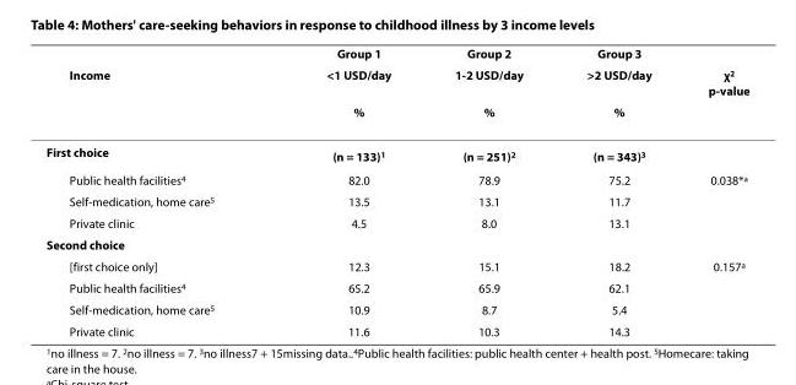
<table><thead><tr><td rowspan="3">Income</td><td rowspan="3">Group 1 &lt;1 USD/day %</td><td rowspan="3">Group 2 1-2 USD/day %</td><td rowspan="3">Group 3 &gt;2 USD/day %</td><td rowspan="3">χ<sup>2</sup> p-value</td></tr><tr></tr><tr></tr></thead><tbody><tr><td>First choice</td><td>(n = 133)<sup>1</sup></td><td>(n = 251)<sup>2</sup></td><td>(n = 343)<sup>3</sup></td><td></td></tr><tr><td>Public health facilities<sup>4</sup></td><td>82.0</td><td>78.9</td><td>75.2</td><td>0.038*<sup>a</sup></td></tr><tr><td>Self-medication, home care<sup>5</sup></td><td>13.5</td><td>13.1</td><td>11.7</td><td></td></tr><tr><td>Private clinic</td><td>4.5</td><td>8.0</td><td>13.1</td><td></td></tr><tr><td colspan="5">Second choice</td></tr><tr><td>[first choice only]</td><td>12.3</td><td>15.1</td><td>18.2</td><td>0.157<sup>a</sup></td></tr><tr><td>Public health facilities<sup>4</sup></td><td>65.2</td><td>65.9</td><td>62.1</td><td></td></tr><tr><td>Self-medication, home care<sup>5</sup></td><td>10.9</td><td>8.7</td><td>5.4</td><td></td></tr><tr><td>Private clinic</td><td>11.6</td><td>10.3</td><td>14.3</td><td></td></tr></tbody></table>